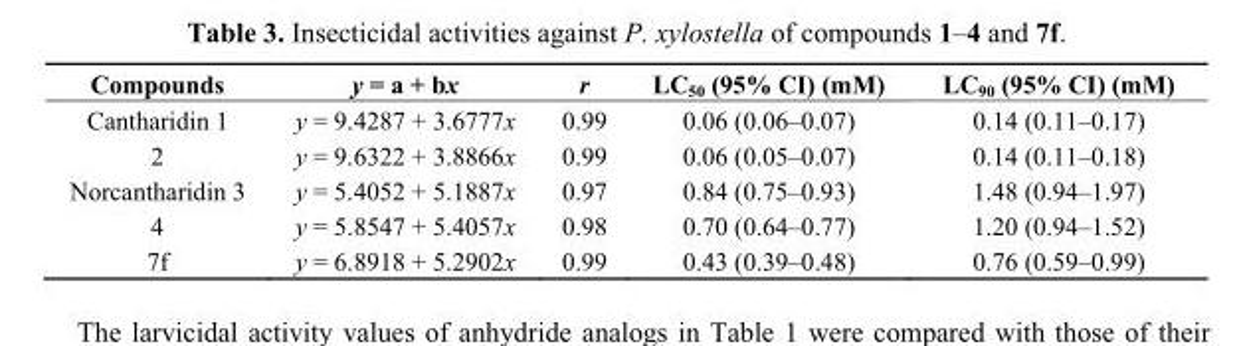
<table><thead><tr><td>Compounds</td><td>y = a + bx</td><td>r</td><td>LC<sub>50</sub> (95% CI) (mM)</td><td>LC<sub>90</sub> (95% CI) (mM)</td></tr></thead><tbody><tr><td>Cantharidin 1</td><td>y = 9.4287 + 3.6777x</td><td>0.99</td><td>0.06 (0.06–0.07)</td><td>0.14 (0.11–0.17)</td></tr><tr><td>2</td><td>y = 9.6322 + 3.8866x</td><td>0.99</td><td>0.06 (0.05–0.07)</td><td>0.14 (0.11–0.18)</td></tr><tr><td>Norcantharidin 3</td><td>y = 5.4052 + 5.1887x</td><td>0.97</td><td>0.84 (0.75–0.93)</td><td>1.48 (0.94–1.97)</td></tr><tr><td>4</td><td>y = 5.8547 + 5.4057x</td><td>0.98</td><td>0.70 (0.64–0.77)</td><td>1.20 (0.94–1.52)</td></tr><tr><td>7f</td><td>y = 6.8918 + 5.2902x</td><td>0.99</td><td>0.43 (0.39–0.48)</td><td>0.76 (0.59–0.99)</td></tr></tbody></table>